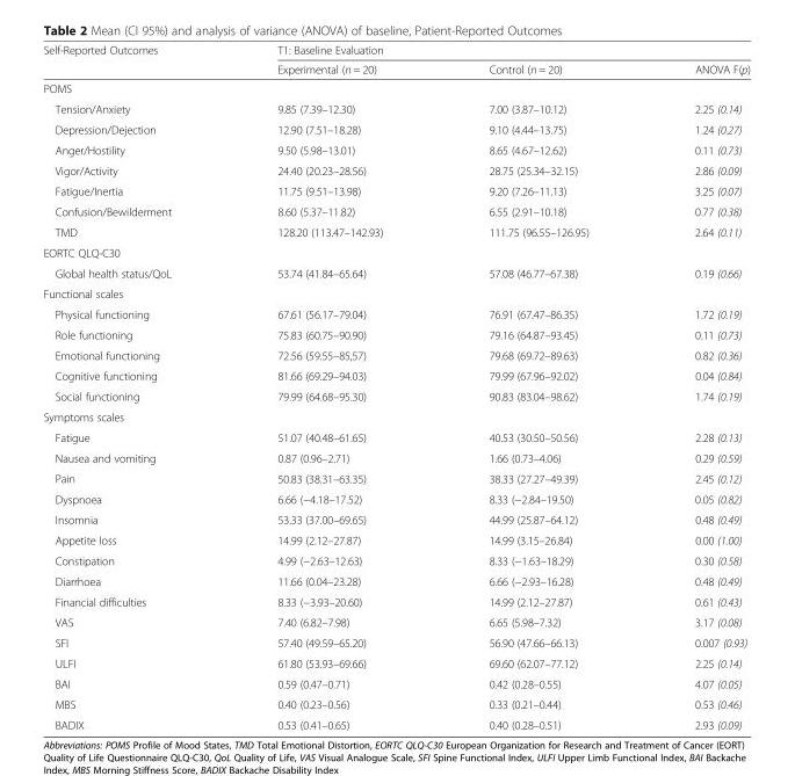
<table><thead><tr><td rowspan="2">Self-Reported Outcomes</td><td colspan="3">T1: Baseline Evaluation</td></tr><tr><td>Experimental (n = 20)</td><td>Control (n = 20)</td><td>ANOVA F(p)</td></tr></thead><tbody><tr><td colspan="4">POMS</td></tr><tr><td>Tension/Anxiety</td><td>9.85 (7.39–12.30)</td><td>7.00 (3.87–10.12)</td><td>2.25 (0.14)</td></tr><tr><td>Depression/Dejection</td><td>12.90 (7.51–18.28)</td><td>9.10 (4.44–13.75)</td><td>1.24 (0.27)</td></tr><tr><td>Anger/Hostility</td><td>9.50 (5.98–13.01)</td><td>8.65 (4.67–12.62)</td><td>0.11 (0.73)</td></tr><tr><td>Vigor/Activity</td><td>24.40 (20.23–28.56)</td><td>28.75 (25.34–32.15)</td><td>2.86 (0.09)</td></tr><tr><td>Fatigue/Inertia</td><td>11.75 (9.51–13.98)</td><td>9.20 (7.26–11.13)</td><td>3.25 (0.07)</td></tr><tr><td>Confusion/Bewilderment</td><td>8.60 (5.37–11.82)</td><td>6.55 (2.91–10.18)</td><td>0.77 (0.38)</td></tr><tr><td>TMD</td><td>128.20 (113.47–142.93)</td><td>111.75 (96.55–126.95)</td><td>2.64 (0.11)</td></tr><tr><td colspan="4">EORTC QLQ-C30</td></tr><tr><td>Global health status/QoL</td><td>53.74 (41.84–65.64)</td><td>57.08 (46.77–67.38)</td><td>0.19 (0.66)</td></tr><tr><td colspan="4">Functional scales</td></tr><tr><td>Physical functioning</td><td>67.61 (56.17–79.04)</td><td>76.91 (67.47–86.35)</td><td>1.72 (0.19)</td></tr><tr><td>Role functioning</td><td>75.83 (60.75–90.90)</td><td>79.16 (64.87–93.45)</td><td>0.11 (0.73)</td></tr><tr><td>Emotional functioning</td><td>72.56 (59.55–85,57)</td><td>79.68 (69.72–89.63)</td><td>0.82 (0.36)</td></tr><tr><td>Cognitive functioning</td><td>81.66 (69.29–94.03)</td><td>79.99 (67.96–92.02)</td><td>0.04 (0.84)</td></tr><tr><td>Social functioning</td><td>79.99 (64.68–95.30)</td><td>90.83 (83.04–98.62)</td><td>1.74 (0.19)</td></tr><tr><td colspan="4">Symptoms scales</td></tr><tr><td>Fatigue</td><td>51.07 (40.48–61.65)</td><td>40.53 (30.50–50.56)</td><td>2.28 (0.13)</td></tr><tr><td>Nausea and vomiting</td><td>0.87 (0.96–2.71)</td><td>1.66 (0.73–4.06)</td><td>0.29 (0.59)</td></tr><tr><td>Pain</td><td>50.83 (38.31–63.35)</td><td>38.33 (27.27–49.39)</td><td>2.45 (0.12)</td></tr><tr><td>Dyspnoea</td><td>6.66 (−4.18–17.52)</td><td>8.33 (−2.84–19.50)</td><td>0.05 (0.82)</td></tr><tr><td>Insomnia</td><td>53.33 (37.00–69.65)</td><td>44.99 (25.87–64.12)</td><td>0.48 (0.49)</td></tr><tr><td>Appetite loss</td><td>14.99 (2.12–27.87)</td><td>14.99 (3.15–26.84)</td><td>0.00 (1.00)</td></tr><tr><td>Constipation</td><td>4.99 (−2.63–12.63)</td><td>8.33 (−1.63–18.29)</td><td>0.30 (0.58)</td></tr><tr><td>Diarrhoea</td><td>11.66 (0.04–23.28)</td><td>6.66 (−2.93–16.28)</td><td>0.48 (0.49)</td></tr><tr><td>Financial difficulties</td><td>8.33 (−3.93–20.60)</td><td>14.99 (2.12–27.87)</td><td>0.61 (0.43)</td></tr><tr><td>VAS</td><td>7.40 (6.82–7.98)</td><td>6.65 (5.98–7.32)</td><td>3.17 (0.08)</td></tr><tr><td>SFI</td><td>57.40 (49.59–65.20)</td><td>56.90 (47.66–66.13)</td><td>0.007 (0.93)</td></tr><tr><td>ULFI</td><td>61.80 (53.93–69.66)</td><td>69.60 (62.07–77.12)</td><td>2.25 (0.14)</td></tr><tr><td>BAI</td><td>0.59 (0.47–0.71)</td><td>0.42 (0.28–0.55)</td><td>4.07 (0.05)</td></tr><tr><td>MBS</td><td>0.40 (0.23–0.56)</td><td>0.33 (0.21–0.44)</td><td>0.53 (0.46)</td></tr><tr><td>BADIX</td><td>0.53 (0.41–0.65)</td><td>0.40 (0.28–0.51)</td><td>2.93 (0.09)</td></tr></tbody></table>